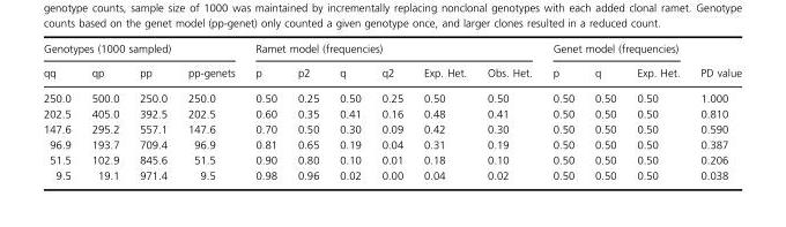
<table><thead><tr><td colspan="4">Genotypes (1000 sampled)</td><td colspan="6">Ramet model (frequencies)</td><td colspan="3">Genet model (frequencies)</td><td rowspan="2">PD value</td></tr><tr><td>qq</td><td>qp</td><td>pp</td><td>pp-genets</td><td>p</td><td>p2</td><td>q</td><td>q2</td><td>Exp. Het.</td><td>Obs. Het.</td><td>p</td><td>q</td><td>Exp. Het.</td></tr></thead><tbody><tr><td>250.0</td><td>500.0</td><td>250.0</td><td>250.0</td><td>0.50</td><td>0.25</td><td>0.50</td><td>0.25</td><td>0.50</td><td>0.50</td><td>0.50</td><td>0.50</td><td>0.50</td><td>1.000</td></tr><tr><td>202.5</td><td>405.0</td><td>392.5</td><td>202.5</td><td>0.60</td><td>0.35</td><td>0.41</td><td>0.16</td><td>0.48</td><td>0.41</td><td>0.50</td><td>0.50</td><td>0.50</td><td>0.810</td></tr><tr><td>147.6</td><td>295.2</td><td>557.1</td><td>147.6</td><td>0.70</td><td>0.50</td><td>0.30</td><td>0.09</td><td>0.42</td><td>0.30</td><td>0.50</td><td>0.50</td><td>0.50</td><td>0.590</td></tr><tr><td>96.9</td><td>193.7</td><td>709.4</td><td>96.9</td><td>0.81</td><td>0.65</td><td>0.19</td><td>0.04</td><td>0.31</td><td>0.19</td><td>0.50</td><td>0.50</td><td>0.50</td><td>0.387</td></tr><tr><td>51.5</td><td>102.9</td><td>845.6</td><td>51.5</td><td>0.90</td><td>0.80</td><td>0.10</td><td>0.01</td><td>0.18</td><td>0.10</td><td>0.50</td><td>0.50</td><td>0.50</td><td>0.206</td></tr><tr><td>9.5</td><td>19.1</td><td>971.4</td><td>9.5</td><td>0.98</td><td>0.96</td><td>0.02</td><td>0.00</td><td>0.04</td><td>0.02</td><td>0.50</td><td>0.50</td><td>0.50</td><td>0.038</td></tr></tbody></table>